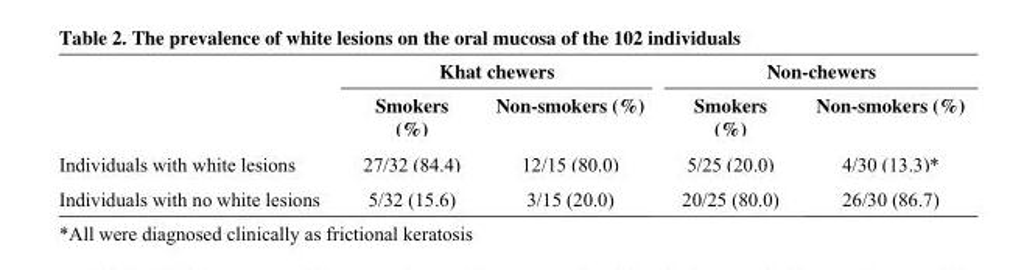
<table><thead><tr><td rowspan="2"></td><td colspan="2">Khat chewers</td><td colspan="2">Non-chewers</td></tr><tr><td>Smokers (%)</td><td>Non-smokers (%)</td><td>Smokers (%)</td><td>Non-smokers (%)</td></tr></thead><tbody><tr><td>Individuals with white lesions</td><td>27/32 (84.4)</td><td>12/15 (80.0)</td><td>5/25 (20.0)</td><td>4/30 (13.3)*</td></tr><tr><td>Individuals with no white lesions</td><td>5/32 (15.6)</td><td>3/15 (20.0)</td><td>20/25 (80.0)</td><td>26/30 (86.7)</td></tr></tbody></table>